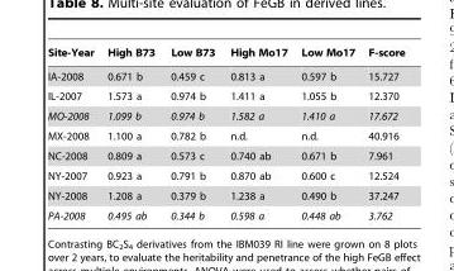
<table><thead><tr><td>Site-Year</td><td>High B73</td><td>Low B73</td><td>High Mo17</td><td>Low Mo17</td><td>F-score</td></tr></thead><tbody><tr><td>IA-2008</td><td>0.671 b</td><td>0.459 c</td><td>0.813 a</td><td>0.597 b</td><td>15.727</td></tr><tr><td>IL-2007</td><td>1.573 a</td><td>0.974 b</td><td>1.411 a</td><td>1.055 b</td><td>12.370</td></tr><tr><td>MO-2008</td><td>1.099 b</td><td>0.974 b</td><td>1.582 a</td><td>1.410 a</td><td>17.672</td></tr><tr><td>MX-2008</td><td>1.100 a</td><td>0.782 b</td><td>n.d.</td><td>n.d.</td><td>40.916</td></tr><tr><td>NC-2008</td><td>0.809 a</td><td>0.573 c</td><td>0.740 ab</td><td>0.671 b</td><td>7.961</td></tr><tr><td>NY-2007</td><td>0.923 a</td><td>0.791 b</td><td>0.870 ab</td><td>0.600 c</td><td>12.524</td></tr><tr><td>NY-2008</td><td>1.208 a</td><td>0.379 b</td><td>1.238 a</td><td>0.490 b</td><td>37.247</td></tr><tr><td>PA-2008</td><td>0.495 ab</td><td>0.344 b</td><td>0.598 a</td><td>0.448 ab</td><td>3.762</td></tr></tbody></table>